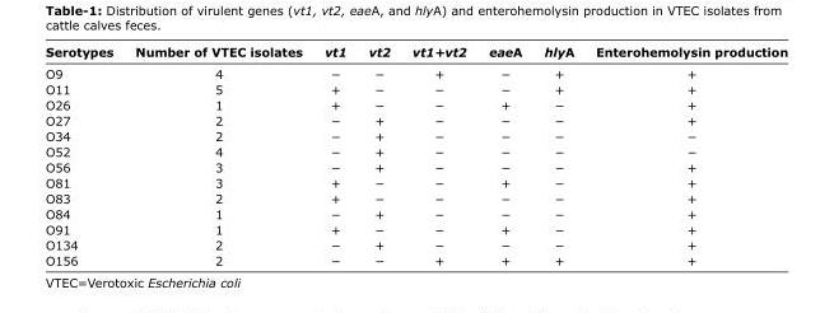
<table><thead><tr><td>Serotypes</td><td>Number of VTEC isolates</td><td>vt1</td><td>vt2</td><td>vt1+vt2</td><td>eaeA</td><td>hlyA</td><td>Enterohemolysin production</td></tr></thead><tbody><tr><td>O9</td><td>4</td><td>−</td><td>−</td><td>+</td><td>−</td><td>+</td><td>+</td></tr><tr><td>O11</td><td>5</td><td>+</td><td>−</td><td>−</td><td>−</td><td>+</td><td>+</td></tr><tr><td>O26</td><td>1</td><td>+</td><td>−</td><td>−</td><td>+</td><td>−</td><td>+</td></tr><tr><td>O27</td><td>2</td><td>−</td><td>+</td><td>−</td><td>−</td><td>−</td><td>+</td></tr><tr><td>O34</td><td>2</td><td>−</td><td>+</td><td>−</td><td>−</td><td>−</td><td>−</td></tr><tr><td>O52</td><td>4</td><td>−</td><td>+</td><td>−</td><td>−</td><td>−</td><td>−</td></tr><tr><td>O56</td><td>3</td><td>−</td><td>+</td><td>−</td><td>−</td><td>−</td><td>+</td></tr><tr><td>O81</td><td>3</td><td>+</td><td>−</td><td>−</td><td>+</td><td>−</td><td>+</td></tr><tr><td>O83</td><td>2</td><td>+</td><td>−</td><td>−</td><td>−</td><td>−</td><td>+</td></tr><tr><td>O84</td><td>1</td><td>−</td><td>+</td><td>−</td><td>−</td><td>−</td><td>+</td></tr><tr><td>O91</td><td>1</td><td>+</td><td>−</td><td>−</td><td>+</td><td>−</td><td>+</td></tr><tr><td>O134</td><td>2</td><td>−</td><td>+</td><td>−</td><td>−</td><td>−</td><td>+</td></tr><tr><td>O156</td><td>2</td><td>−</td><td>−</td><td>+</td><td>+</td><td>+</td><td>+</td></tr></tbody></table>